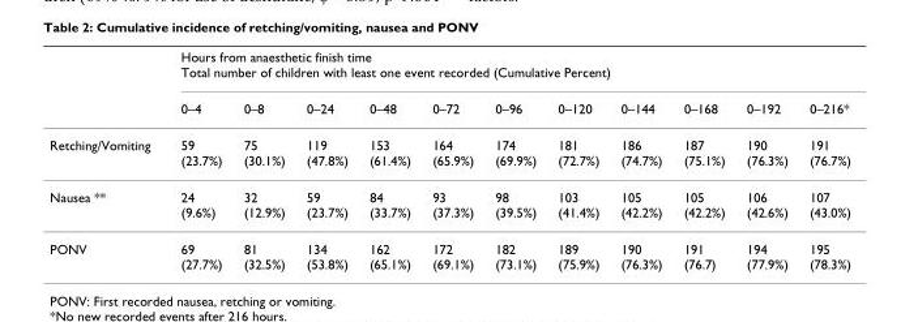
<table><thead><tr><td rowspan="2"></td><td colspan="11">Hours from anaesthetic finish time Total number of children with least one event recorded (Cumulative Percent)</td></tr><tr><td>0–4</td><td>0–8</td><td>0–24</td><td>0–48</td><td>0–72</td><td>0–96</td><td>0–120</td><td>0–144</td><td>0–168</td><td>0–192</td><td>0–216*</td></tr></thead><tbody><tr><td>Retching/Vomiting</td><td>59 (23.7%)</td><td>75 (30.1%)</td><td>119 (47.8%)</td><td>153 (61.4%)</td><td>164 (65.9%)</td><td>174 (69.9%)</td><td>181 (72.7%)</td><td>186 (74.7%)</td><td>187 (75.1%)</td><td>190 (76.3%)</td><td>191 (76.7%)</td></tr><tr><td>Nausea **</td><td>24 (9.6%)</td><td>32 (12.9%)</td><td>59 (23.7%)</td><td>84 (33.7%)</td><td>93 (37.3%)</td><td>98 (39.5%)</td><td>103 (41.4%)</td><td>105 (42.2%)</td><td>105 (42.2%)</td><td>106 (42.6%)</td><td>107 (43.0%)</td></tr><tr><td>PONV</td><td>69 (27.7%)</td><td>81 (32.5%)</td><td>134 (53.8%)</td><td>162 (65.1%)</td><td>172 (69.1%)</td><td>182 (73.1%)</td><td>189 (75.9%)</td><td>190 (76.3%)</td><td>191 (76.7)</td><td>194 (77.9%)</td><td>195 (78.3%)</td></tr></tbody></table>